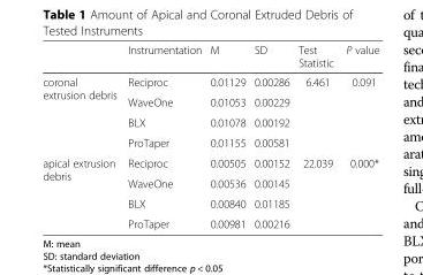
<table><thead><tr><td></td><td>Instrumentation</td><td>M</td><td>SD</td><td>Test Statistic</td><td>P value</td></tr></thead><tbody><tr><td rowspan="4">coronal extrusion debris</td><td>Reciproc</td><td>0.01129</td><td>0.00286</td><td rowspan="4">6.461</td><td rowspan="4">0.091</td></tr><tr><td>WaveOne</td><td>0.01053</td><td>0.00229</td></tr><tr><td>BLX</td><td>0.01078</td><td>0.00192</td></tr><tr><td>ProTaper</td><td>0.01155</td><td>0.00581</td></tr><tr><td rowspan="4">apical extrusion debris</td><td>Reciproc</td><td>0.00505</td><td>0.00152</td><td rowspan="4">22.039</td><td rowspan="4">0.000*</td></tr><tr><td>WaveOne</td><td>0.00536</td><td>0.00145</td></tr><tr><td>BLX</td><td>0.00840</td><td>0.01185</td></tr><tr><td>ProTaper</td><td>0.00981</td><td>0.00216</td></tr></tbody></table>